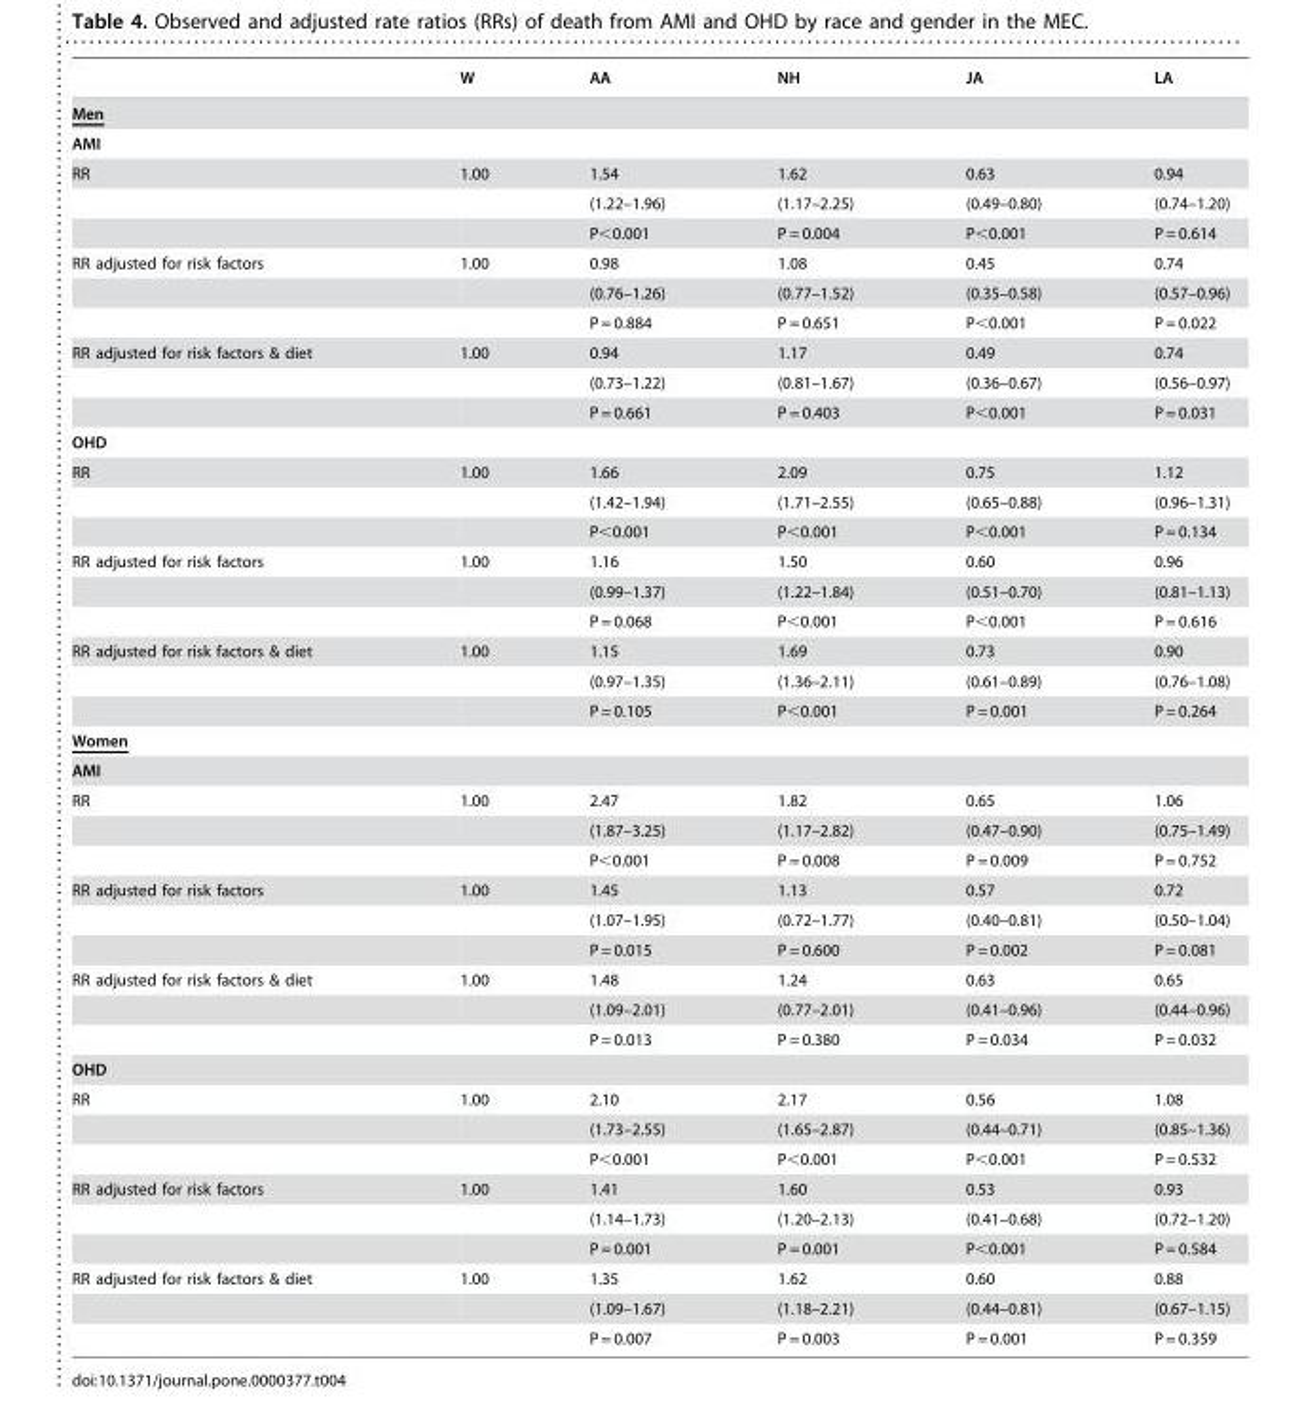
<table><thead><tr><td></td><td>W</td><td>AA</td><td>NH</td><td>JA</td><td>LA</td></tr></thead><tbody><tr><td colspan="6">Men</td></tr><tr><td colspan="6">AMI</td></tr><tr><td rowspan="3">RR</td><td>1.00</td><td>1.54</td><td>1.62</td><td>0.63</td><td>0.94</td></tr><tr><td></td><td>(1.22–1.96)</td><td>(1.17–2.25)</td><td>(0.49–0.80)</td><td>(0.74–1.20)</td></tr><tr><td></td><td>P&lt;0.001</td><td>P = 0.004</td><td>P&lt;0.001</td><td>P = 0.614</td></tr><tr><td rowspan="3">RR adjusted for risk factors</td><td>1.00</td><td>0.98</td><td>1.08</td><td>0.45</td><td>0.74</td></tr><tr><td></td><td>(0.76–1.26)</td><td>(0.77–1.52)</td><td>(0.35–0.58)</td><td>(0.57–0.96)</td></tr><tr><td></td><td>P = 0.884</td><td>P = 0.651</td><td>P&lt;0.001</td><td>P = 0.022</td></tr><tr><td rowspan="3">RR adjusted for risk factors &amp; diet</td><td>1.00</td><td>0.94</td><td>1.17</td><td>0.49</td><td>0.74</td></tr><tr><td></td><td>(0.73–1.22)</td><td>(0.81–1.67)</td><td>(0.36–0.67)</td><td>(0.56–0.97)</td></tr><tr><td></td><td>P = 0.661</td><td>P = 0.403</td><td>P&lt;0.001</td><td>P = 0.031</td></tr><tr><td colspan="6">OHD</td></tr><tr><td rowspan="3">RR</td><td>1.00</td><td>1.66</td><td>2.09</td><td>0.75</td><td>1.12</td></tr><tr><td></td><td>(1.42–1.94)</td><td>(1.71–2.55)</td><td>(0.65–0.88)</td><td>(0.96–1.31)</td></tr><tr><td></td><td>P&lt;0.001</td><td>P&lt;0.001</td><td>P&lt;0.001</td><td>P = 0.134</td></tr><tr><td rowspan="3">RR adjusted for risk factors</td><td>1.00</td><td>1.16</td><td>1.50</td><td>0.60</td><td>0.96</td></tr><tr><td></td><td>(0.99–1.37)</td><td>(1.22–1.84)</td><td>(0.51–0.70)</td><td>(0.81–1.13)</td></tr><tr><td></td><td>P = 0.068</td><td>P&lt;0.001</td><td>P&lt;0.001</td><td>P = 0.616</td></tr><tr><td rowspan="3">RR adjusted for risk factors &amp; diet</td><td>1.00</td><td>1.15</td><td>1.69</td><td>0.73</td><td>0.90</td></tr><tr><td></td><td>(0.97–1.35)</td><td>(1.36–2.11)</td><td>(0.61–0.89)</td><td>(0.76–1.08)</td></tr><tr><td></td><td>P = 0.105</td><td>P&lt;0.001</td><td>P = 0.001</td><td>P = 0.264</td></tr><tr><td colspan="6">Women</td></tr><tr><td colspan="6">AMI</td></tr><tr><td rowspan="3">RR</td><td>1.00</td><td>2.47</td><td>1.82</td><td>0.65</td><td>1.06</td></tr><tr><td></td><td>(1.87–3.25)</td><td>(1.17–2.82)</td><td>(0.47–0.90)</td><td>(0.75–1.49)</td></tr><tr><td></td><td>P&lt;0.001</td><td>P = 0.008</td><td>P = 0.009</td><td>P = 0.752</td></tr><tr><td rowspan="3">RR adjusted for risk factors</td><td>1.00</td><td>1.45</td><td>1.13</td><td>0.57</td><td>0.72</td></tr><tr><td></td><td>(1.07–1.95)</td><td>(0.72–1.77)</td><td>(0.40–0.81)</td><td>(0.50–1.04)</td></tr><tr><td></td><td>P = 0.015</td><td>P = 0.600</td><td>P = 0.002</td><td>P = 0.081</td></tr><tr><td rowspan="3">RR adjusted for risk factors &amp; diet</td><td>1.00</td><td>1.48</td><td>1.24</td><td>0.63</td><td>0.65</td></tr><tr><td></td><td>(1.09–2.01)</td><td>(0.77–2.01)</td><td>(0.41–0.96)</td><td>(0.44–0.96)</td></tr><tr><td></td><td>P = 0.013</td><td>P = 0.380</td><td>P = 0.034</td><td>P = 0.032</td></tr><tr><td colspan="6">OHD</td></tr><tr><td rowspan="3">RR</td><td>1.00</td><td>2.10</td><td>2.17</td><td>0.56</td><td>1.08</td></tr><tr><td></td><td>(1.73–2.55)</td><td>(1.65–2.87)</td><td>(0.44–0.71)</td><td>(0.85–1.36)</td></tr><tr><td></td><td>P&lt;0.001</td><td>P&lt;0.001</td><td>P&lt;0.001</td><td>P = 0.532</td></tr><tr><td rowspan="3">RR adjusted for risk factors</td><td>1.00</td><td>1.41</td><td>1.60</td><td>0.53</td><td>0.93</td></tr><tr><td></td><td>(1.14–1.73)</td><td>(1.20–2.13)</td><td>(0.41–0.68)</td><td>(0.72–1.20)</td></tr><tr><td></td><td>P = 0.001</td><td>P = 0.001</td><td>P&lt;0.001</td><td>P = 0.584</td></tr><tr><td rowspan="3">RR adjusted for risk factors &amp; diet</td><td>1.00</td><td>1.35</td><td>1.62</td><td>0.60</td><td>0.88</td></tr><tr><td></td><td>(1.09–1.67)</td><td>(1.18–2.21)</td><td>(0.44–0.81)</td><td>(0.67–1.15)</td></tr><tr><td></td><td>P = 0.007</td><td>P = 0.003</td><td>P = 0.001</td><td>P = 0.359</td></tr></tbody></table>